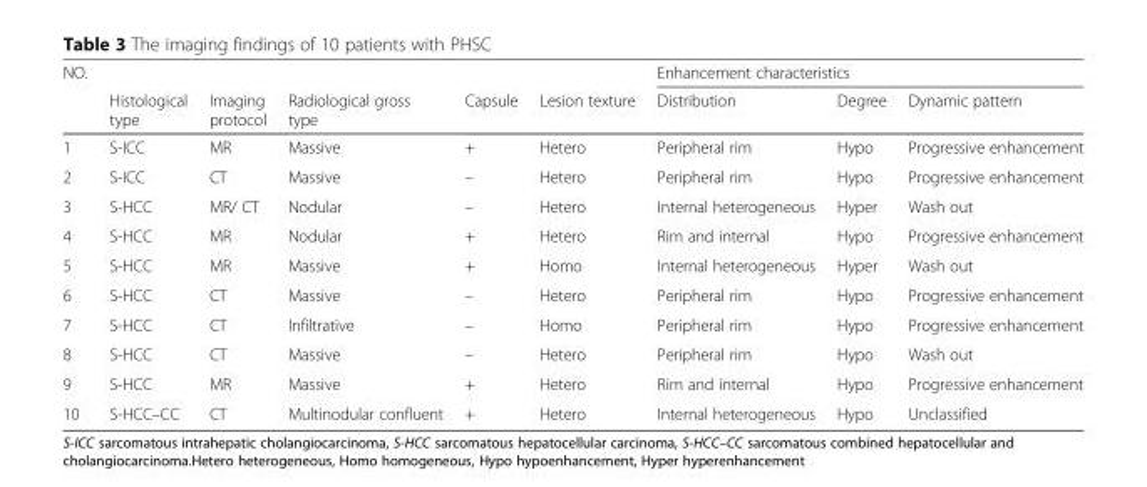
<table><thead><tr><td rowspan="2">NO.</td><td rowspan="2">Histological type</td><td rowspan="2">Imaging protocol</td><td rowspan="2">Radiological gross type</td><td rowspan="2">Capsule</td><td rowspan="2">Lesion texture</td><td colspan="3">Enhancement characteristics</td></tr><tr><td>Distribution</td><td>Degree</td><td>Dynamic pattern</td></tr></thead><tbody><tr><td>1</td><td>S-ICC</td><td>MR</td><td>Massive</td><td>+</td><td>Hetero</td><td>Peripheral rim</td><td>Hypo</td><td>Progressive enhancement</td></tr><tr><td>2</td><td>S-ICC</td><td>CT</td><td>Massive</td><td>–</td><td>Hetero</td><td>Peripheral rim</td><td>Hypo</td><td>Progressive enhancement</td></tr><tr><td>3</td><td>S-HCC</td><td>MR/ CT</td><td>Nodular</td><td>–</td><td>Hetero</td><td>Internal heterogeneous</td><td>Hyper</td><td>Wash out</td></tr><tr><td>4</td><td>S-HCC</td><td>MR</td><td>Nodular</td><td>+</td><td>Hetero</td><td>Rim and internal</td><td>Hypo</td><td>Progressive enhancement</td></tr><tr><td>5</td><td>S-HCC</td><td>MR</td><td>Massive</td><td>+</td><td>Homo</td><td>Internal heterogeneous</td><td>Hyper</td><td>Wash out</td></tr><tr><td>6</td><td>S-HCC</td><td>CT</td><td>Massive</td><td>–</td><td>Hetero</td><td>Peripheral rim</td><td>Hypo</td><td>Progressive enhancement</td></tr><tr><td>7</td><td>S-HCC</td><td>CT</td><td>Infiltrative</td><td>–</td><td>Homo</td><td>Peripheral rim</td><td>Hypo</td><td>Progressive enhancement</td></tr><tr><td>8</td><td>S-HCC</td><td>CT</td><td>Massive</td><td>–</td><td>Hetero</td><td>Peripheral rim</td><td>Hypo</td><td>Wash out</td></tr><tr><td>9</td><td>S-HCC</td><td>MR</td><td>Massive</td><td>+</td><td>Hetero</td><td>Rim and internal</td><td>Hypo</td><td>Progressive enhancement</td></tr><tr><td>10</td><td>S-HCC–CC</td><td>CT</td><td>Multinodular confluent</td><td>+</td><td>Hetero</td><td>Internal heterogeneous</td><td>Hypo</td><td>Unclassified</td></tr></tbody></table>